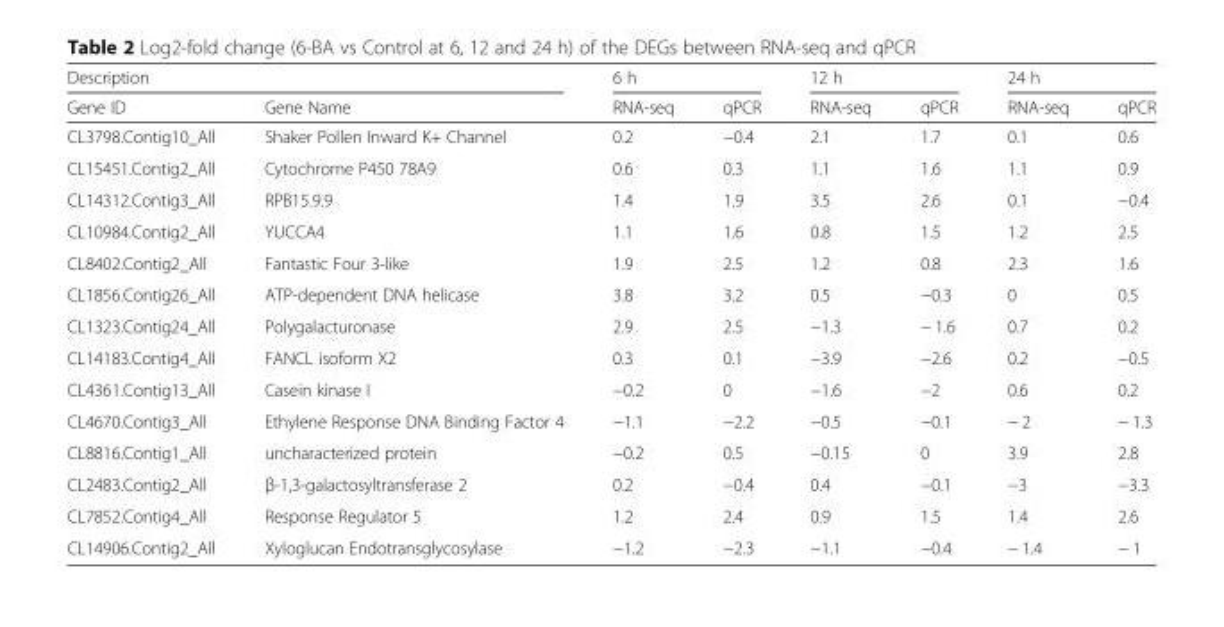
<table><thead><tr><td colspan="2">Description</td><td colspan="2">6 h</td><td colspan="2">12 h</td><td colspan="2">24 h</td></tr><tr><td>Gene ID</td><td>Gene Name</td><td>RNA-seq</td><td>qPCR</td><td>RNA-seq</td><td>qPCR</td><td>RNA-seq</td><td>qPCR</td></tr></thead><tbody><tr><td>CL3798.Contig10_All</td><td>Shaker Pollen Inward K+ Channel</td><td>0.2</td><td>−0.4</td><td>2.1</td><td>1.7</td><td>0.1</td><td>0.6</td></tr><tr><td>CL15451.Contig2_All</td><td>Cytochrome P450 78A9</td><td>0.6</td><td>0.3</td><td>1.1</td><td>1.6</td><td>1.1</td><td>0.9</td></tr><tr><td>CL14312.Contig3_All</td><td>RPB15.9.9</td><td>1.4</td><td>1.9</td><td>3.5</td><td>2.6</td><td>0.1</td><td>−0.4</td></tr><tr><td>CL10984.Contig2_All</td><td>YUCCA4</td><td>1.1</td><td>1.6</td><td>0.8</td><td>1.5</td><td>1.2</td><td>2.5</td></tr><tr><td>CL8402.Contig2_All</td><td>Fantastic Four 3-like</td><td>1.9</td><td>2.5</td><td>1.2</td><td>0.8</td><td>2.3</td><td>1.6</td></tr><tr><td>CL1856.Contig26_All</td><td>ATP-dependent DNA helicase</td><td>3.8</td><td>3.2</td><td>0.5</td><td>−0.3</td><td>0</td><td>0.5</td></tr><tr><td>CL1323.Contig24_All</td><td>Polygalacturonase</td><td>2.9</td><td>2.5</td><td>−1.3</td><td>− 1.6</td><td>0.7</td><td>0.2</td></tr><tr><td>CL14183.Contig4_All</td><td>FANCL isoform X2</td><td>0.3</td><td>0.1</td><td>−3.9</td><td>−2.6</td><td>0.2</td><td>−0.5</td></tr><tr><td>CL4361.Contig13_All</td><td>Casein kinase I</td><td>−0.2</td><td>0</td><td>−1.6</td><td>−2</td><td>0.6</td><td>0.2</td></tr><tr><td>CL4670.Contig3_All</td><td>Ethylene Response DNA Binding Factor 4</td><td>−1.1</td><td>−2.2</td><td>−0.5</td><td>−0.1</td><td>− 2</td><td>− 1.3</td></tr><tr><td>CL8816.Contig1_All</td><td>uncharacterized protein</td><td>−0.2</td><td>0.5</td><td>−0.15</td><td>0</td><td>3.9</td><td>2.8</td></tr><tr><td>CL2483.Contig2_All</td><td>β-1,3-galactosyltransferase 2</td><td>0.2</td><td>−0.4</td><td>0.4</td><td>−0.1</td><td>−3</td><td>−3.3</td></tr><tr><td>CL7852.Contig4_All</td><td>Response Regulator 5</td><td>1.2</td><td>2.4</td><td>0.9</td><td>1.5</td><td>1.4</td><td>2.6</td></tr><tr><td>CL14906.Contig2_All</td><td>Xyloglucan Endotransglycosylase</td><td>−1.2</td><td>−2.3</td><td>−1.1</td><td>−0.4</td><td>− 1.4</td><td>− 1</td></tr></tbody></table>